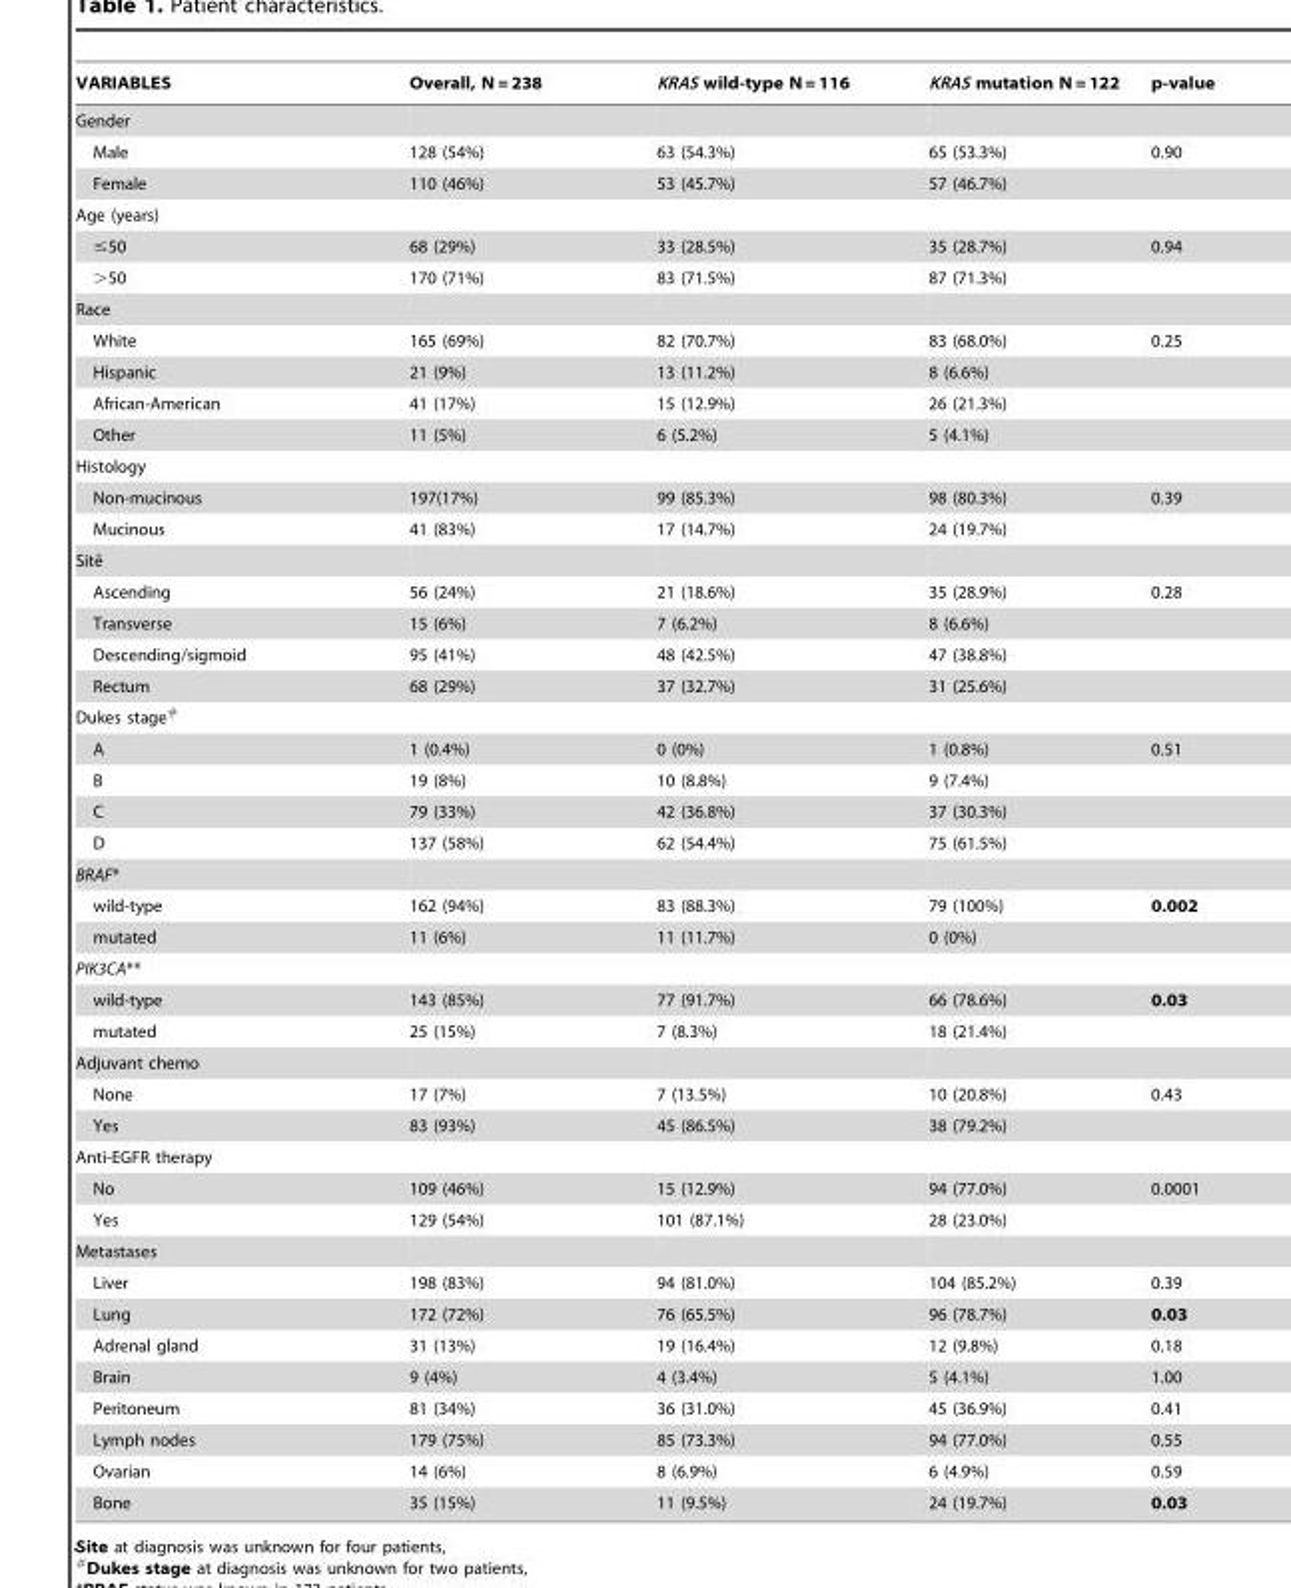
<table><thead><tr><td>VARIABLES</td><td>Overall, N = 238</td><td>KRAS wild-type N = 116</td><td>KRAS mutation N = 122</td><td>p-value</td></tr></thead><tbody><tr><td colspan="5">Gender</td></tr><tr><td>Male</td><td>128 (54%)</td><td>63 (54.3%)</td><td>65 (53.3%)</td><td>0.90</td></tr><tr><td>Female</td><td>110 (46%)</td><td>53 (45.7%)</td><td>57 (46.7%)</td><td></td></tr><tr><td colspan="5">Age (years)</td></tr><tr><td>≤50</td><td>68 (29%)</td><td>33 (28.5%)</td><td>35 (28.7%)</td><td>0.94</td></tr><tr><td>&gt;50</td><td>170 (71%)</td><td>83 (71.5%)</td><td>87 (71.3%)</td><td></td></tr><tr><td colspan="5">Race</td></tr><tr><td>White</td><td>165 (69%)</td><td>82 (70.7%)</td><td>83 (68.0%)</td><td>0.25</td></tr><tr><td>Hispanic</td><td>21 (9%)</td><td>13 (11.2%)</td><td>8 (6.6%)</td><td></td></tr><tr><td>African-American</td><td>41 (17%)</td><td>15 (12.9%)</td><td>26 (21.3%)</td><td></td></tr><tr><td>Other</td><td>11 (5%)</td><td>6 (5.2%)</td><td>5 (4.1%)</td><td></td></tr><tr><td colspan="5">Histology</td></tr><tr><td>Non-mucinous</td><td>197(17%)</td><td>99 (85.3%)</td><td>98 (80.3%)</td><td>0.39</td></tr><tr><td>Mucinous</td><td>41 (83%)</td><td>17 (14.7%)</td><td>24 (19.7%)</td><td></td></tr><tr><td colspan="5">Siteˆ</td></tr><tr><td>Ascending</td><td>56 (24%)</td><td>21 (18.6%)</td><td>35 (28.9%)</td><td>0.28</td></tr><tr><td>Transverse</td><td>15 (6%)</td><td>7 (6.2%)</td><td>8 (6.6%)</td><td></td></tr><tr><td>Descending/sigmoid</td><td>95 (41%)</td><td>48 (42.5%)</td><td>47 (38.8%)</td><td></td></tr><tr><td>Rectum</td><td>68 (29%)</td><td>37 (32.7%)</td><td>31 (25.6%)</td><td></td></tr><tr><td colspan="5">Dukes stage#</td></tr><tr><td>A</td><td>1 (0.4%)</td><td>0 (0%)</td><td>1 (0.8%)</td><td>0.51</td></tr><tr><td>B</td><td>19 (8%)</td><td>10 (8.8%)</td><td>9 (7.4%)</td><td></td></tr><tr><td>C</td><td>79 (33%)</td><td>42 (36.8%)</td><td>37 (30.3%)</td><td></td></tr><tr><td>D</td><td>137 (58%)</td><td>62 (54.4%)</td><td>75 (61.5%)</td><td></td></tr><tr><td colspan="5">BRAF*</td></tr><tr><td>wild-type</td><td>162 (94%)</td><td>83 (88.3%)</td><td>79 (100%)</td><td>0.002</td></tr><tr><td>mutated</td><td>11 (6%)</td><td>11 (11.7%)</td><td>0 (0%)</td><td></td></tr><tr><td colspan="5">PIK3CA**</td></tr><tr><td>wild-type</td><td>143 (85%)</td><td>77 (91.7%)</td><td>66 (78.6%)</td><td>0.03</td></tr><tr><td>mutated</td><td>25 (15%)</td><td>7 (8.3%)</td><td>18 (21.4%)</td><td></td></tr><tr><td colspan="5">Adjuvant chemo</td></tr><tr><td>None</td><td>17 (7%)</td><td>7 (13.5%)</td><td>10 (20.8%)</td><td>0.43</td></tr><tr><td>Yes</td><td>83 (93%)</td><td>45 (86.5%)</td><td>38 (79.2%)</td><td></td></tr><tr><td colspan="5">Anti-EGFR therapy</td></tr><tr><td>No</td><td>109 (46%)</td><td>15 (12.9%)</td><td>94 (77.0%)</td><td>0.0001</td></tr><tr><td>Yes</td><td>129 (54%)</td><td>101 (87.1%)</td><td>28 (23.0%)</td><td></td></tr><tr><td colspan="5">Metastases</td></tr><tr><td>Liver</td><td>198 (83%)</td><td>94 (81.0%)</td><td>104 (85.2%)</td><td>0.39</td></tr><tr><td>Lung</td><td>172 (72%)</td><td>76 (65.5%)</td><td>96 (78.7%)</td><td>0.03</td></tr><tr><td>Adrenal gland</td><td>31 (13%)</td><td>19 (16.4%)</td><td>12 (9.8%)</td><td>0.18</td></tr><tr><td>Brain</td><td>9 (4%)</td><td>4 (3.4%)</td><td>5 (4.1%)</td><td>1.00</td></tr><tr><td>Peritoneum</td><td>81 (34%)</td><td>36 (31.0%)</td><td>45 (36.9%)</td><td>0.41</td></tr><tr><td>Lymph nodes</td><td>179 (75%)</td><td>85 (73.3%)</td><td>94 (77.0%)</td><td>0.55</td></tr><tr><td>Ovarian</td><td>14 (6%)</td><td>8 (6.9%)</td><td>6 (4.9%)</td><td>0.59</td></tr><tr><td>Bone</td><td>35 (15%)</td><td>11 (9.5%)</td><td>24 (19.7%)</td><td>0.03</td></tr></tbody></table>